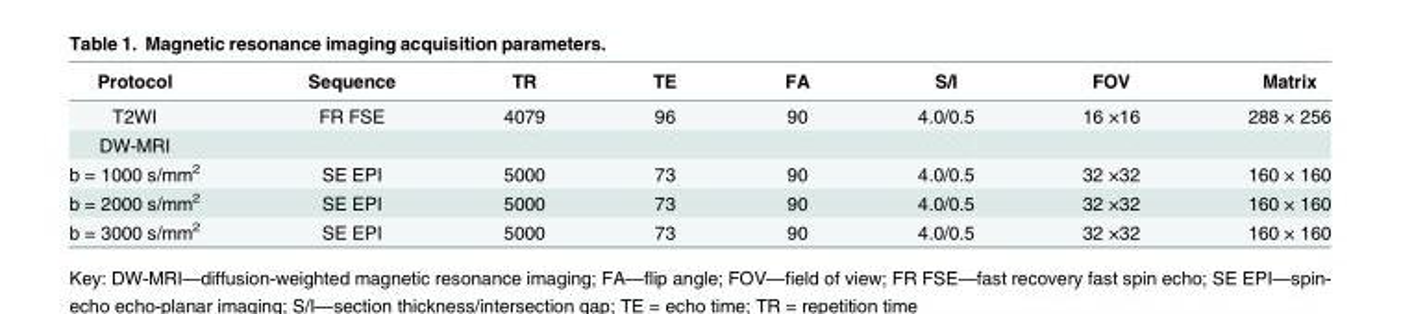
<table><thead><tr><td>Protocol</td><td>Sequence</td><td>TR</td><td>TE</td><td>FA</td><td>S/I</td><td>FOV</td><td>Matrix</td></tr></thead><tbody><tr><td>T2WI</td><td>FR FSE</td><td>4079</td><td>96</td><td>90</td><td>4.0/0.5</td><td>16 ×16</td><td>288 × 256</td></tr><tr><td colspan="8">DW-MRI</td></tr><tr><td>b = 1000 s/mm<sup>2</sup></td><td>SE EPI</td><td>5000</td><td>73</td><td>90</td><td>4.0/0.5</td><td>32 ×32</td><td>160 × 160</td></tr><tr><td>b = 2000 s/mm<sup>2</sup></td><td>SE EPI</td><td>5000</td><td>73</td><td>90</td><td>4.0/0.5</td><td>32 ×32</td><td>160 × 160</td></tr><tr><td>b = 3000 s/mm<sup>2</sup></td><td>SE EPI</td><td>5000</td><td>73</td><td>90</td><td>4.0/0.5</td><td>32 ×32</td><td>160 × 160</td></tr></tbody></table>